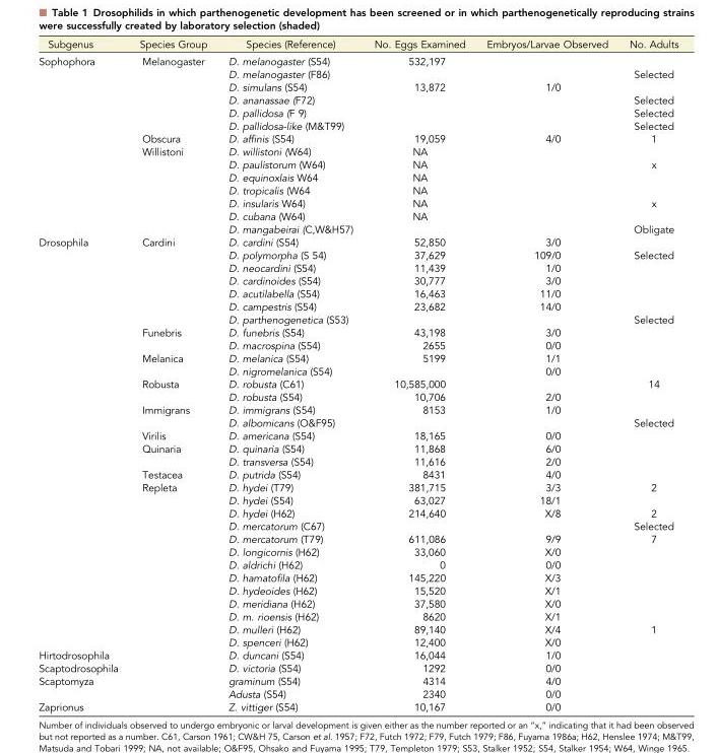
<table><thead><tr><td>Subgenus</td><td>Species Group</td><td>Species (Reference)</td><td>No. Eggs Examined</td><td>Embryos/Larvae Observed</td><td>No. Adults</td></tr></thead><tbody><tr><td rowspan="14">Sophophora</td><td>Melanogaster</td><td>D. melanogaster (S54)</td><td>532,197</td><td></td><td></td></tr><tr><td></td><td>D. melanogaster (F86)</td><td></td><td></td><td>Selected</td></tr><tr><td></td><td>D. simulans (S54)</td><td>13,872</td><td>1/0</td><td></td></tr><tr><td></td><td>D. ananassae (F72)</td><td></td><td></td><td>Selected</td></tr><tr><td></td><td>D. pallidosa (F 9)</td><td></td><td></td><td>Selected</td></tr><tr><td></td><td>D. pallidosa-like (M&amp;T99)</td><td></td><td></td><td>Selected</td></tr><tr><td>Obscura</td><td>D. affinis (S54)</td><td>19,059</td><td>4/0</td><td>1</td></tr><tr><td>Willistoni</td><td>D. willistoni (W64)</td><td>NA</td><td></td><td></td></tr><tr><td></td><td>D. paulistorum (W64)</td><td>NA</td><td></td><td>x</td></tr><tr><td></td><td>D. equinoxlais W64</td><td>NA</td><td></td><td></td></tr><tr><td></td><td>D. tropicalis (W64</td><td>NA</td><td></td><td></td></tr><tr><td></td><td>D. insularis W64)</td><td>NA</td><td></td><td>x</td></tr><tr><td></td><td>D. cubana (W64)</td><td>NA</td><td></td><td></td></tr><tr><td></td><td>D. mangabeirai (C,W&amp;H57)</td><td></td><td></td><td>Obligate</td></tr><tr><td rowspan="32">Drosophila</td><td>Cardini</td><td>D. cardini (S54)</td><td>52,850</td><td>3/0</td><td></td></tr><tr><td></td><td>D. polymorpha (S 54)</td><td>37,629</td><td>109/0</td><td>Selected</td></tr><tr><td></td><td>D. neocardini (S54)</td><td>11,439</td><td>1/0</td><td></td></tr><tr><td></td><td>D. cardinoides (S54)</td><td>30,777</td><td>3/0</td><td></td></tr><tr><td></td><td>D. acutilabella (S54)</td><td>16,463</td><td>11/0</td><td></td></tr><tr><td></td><td>D. campestris (S54)</td><td>23,682</td><td>14/0</td><td></td></tr><tr><td></td><td>D. parthenogenetica (S53)</td><td></td><td></td><td>Selected</td></tr><tr><td>Funebris</td><td>D. funebris (S54)</td><td>43,198</td><td>3/0</td><td></td></tr><tr><td></td><td>D. macrospina (S54)</td><td>2655</td><td>0/0</td><td></td></tr><tr><td>Melanica</td><td>D. melanica (S54)</td><td>5199</td><td>1/1</td><td></td></tr><tr><td></td><td>D. nigromelanica (S54)</td><td></td><td>0/0</td><td></td></tr><tr><td>Robusta</td><td>D. robusta (C61)</td><td>10,585,000</td><td></td><td>14</td></tr><tr><td></td><td>D. robusta (S54)</td><td>10,706</td><td>2/0</td><td></td></tr><tr><td>Immigrans</td><td>D. immigrans (S54)</td><td>8153</td><td>1/0</td><td></td></tr><tr><td></td><td>D. albomicans (O&amp;F95)</td><td></td><td></td><td>Selected</td></tr><tr><td>Virilis</td><td>D. americana (S54)</td><td>18,165</td><td>0/0</td><td></td></tr><tr><td>Quinaria</td><td>D. quinaria (S54)</td><td>11,868</td><td>6/0</td><td></td></tr><tr><td></td><td>D. transversa (S54)</td><td>11,616</td><td>2/0</td><td></td></tr><tr><td>Testacea</td><td>D. putrida (S54)</td><td>8431</td><td>4/0</td><td></td></tr><tr><td>Repleta</td><td>D. hydei (T79)</td><td>381,715</td><td>3/3</td><td>2</td></tr><tr><td></td><td>D. hydei (S54)</td><td>63,027</td><td>18/1</td><td></td></tr><tr><td></td><td>D. hydei (H62)</td><td>214,640</td><td>X/8</td><td>2</td></tr><tr><td></td><td>D. mercatorum (C67)</td><td></td><td></td><td>Selected</td></tr><tr><td></td><td>D. mercatorum (T79)</td><td>611,086</td><td>9/9</td><td>7</td></tr><tr><td></td><td>D. longicornis (H62)</td><td>33,060</td><td>X/0</td><td></td></tr><tr><td></td><td>D. aldrichi (H62)</td><td>0</td><td>0/0</td><td></td></tr><tr><td></td><td>D. hamatofila (H62)</td><td>145,220</td><td>X/3</td><td></td></tr><tr><td></td><td>D. hydeoides (H62)</td><td>15,520</td><td>X/1</td><td></td></tr><tr><td></td><td>D. meridiana (H62)</td><td>37,580</td><td>X/0</td><td></td></tr><tr><td></td><td>D. m. rioensis (H62)</td><td>8620</td><td>X/1</td><td></td></tr><tr><td></td><td>D. mulleri (H62)</td><td>89,140</td><td>X/4</td><td>1</td></tr><tr><td></td><td>D. spenceri (H62)</td><td>12,400</td><td>X/0</td><td></td></tr><tr><td>Hirtodrosophila</td><td></td><td>D. duncani (S54)</td><td>16,044</td><td>1/0</td><td></td></tr><tr><td>Scaptodrosophila</td><td></td><td>D. victoria (S54)</td><td>1292</td><td>0/0</td><td></td></tr><tr><td rowspan="2">Scaptomyza</td><td></td><td>graminum (S54)</td><td>4314</td><td>4/0</td><td></td></tr><tr><td></td><td>Adusta (S54)</td><td>2340</td><td>0/0</td><td></td></tr><tr><td>Zaprionus</td><td></td><td>Z. vittiger (S54)</td><td>10,167</td><td>0/0</td><td></td></tr></tbody></table>